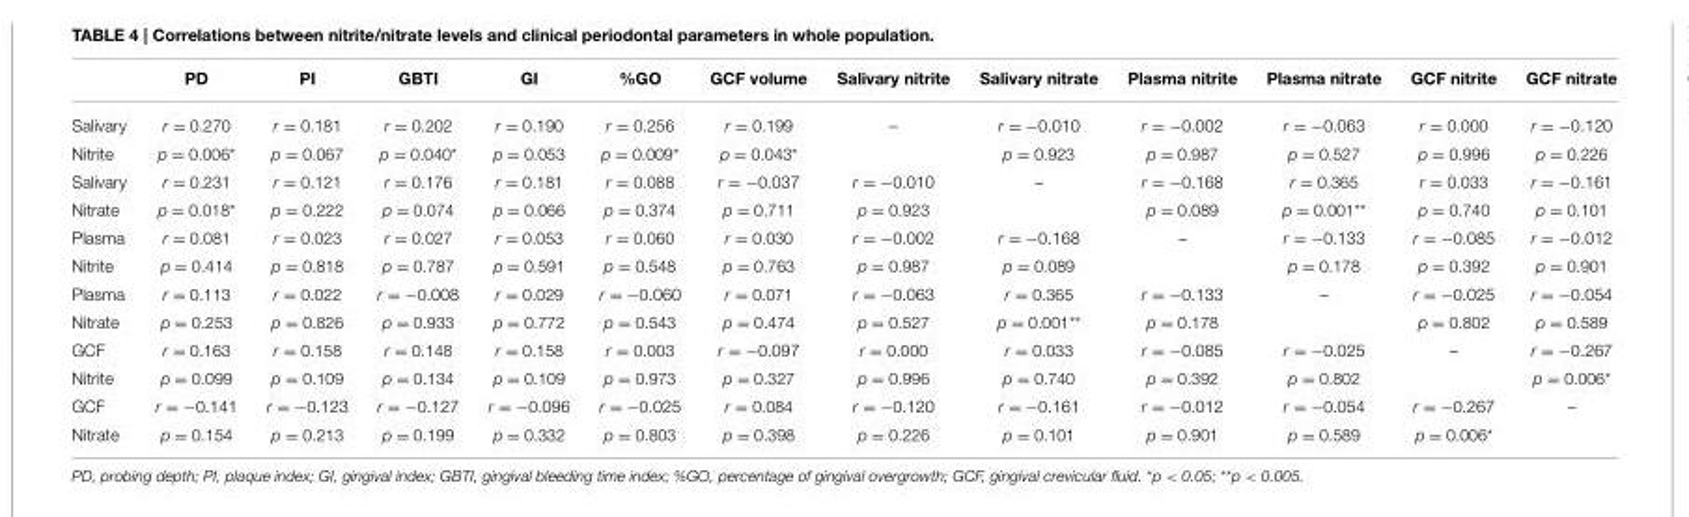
<table><thead><tr><td></td><td>PD</td><td>PI</td><td>GBTI</td><td>GI</td><td>%GO</td><td>GCF volume</td><td>Salivary nitrite</td><td>Salivary nitrate</td><td>Plasma nitrite</td><td>Plasma nitrate</td><td>GCF nitrite</td><td>GCF nitrate</td></tr></thead><tbody><tr><td>Salivary</td><td>r = 0.270</td><td>r = 0.181</td><td>r = 0.202</td><td>r = 0.190</td><td>r = 0.256</td><td>r = 0.199</td><td>–</td><td>r = −0.010</td><td>r = −0.002</td><td>r = −0.063</td><td>r = 0.000</td><td>r = −0.120</td></tr><tr><td>Nitrite</td><td>p = 0.006*</td><td>p = 0.067</td><td>p = 0.040*</td><td>p = 0.053</td><td>p = 0.009*</td><td>p = 0.043*</td><td></td><td>p = 0.923</td><td>p = 0.987</td><td>p = 0.527</td><td>p = 0.996</td><td>p = 0.226</td></tr><tr><td>Salivary</td><td>r = 0.231</td><td>r = 0.121</td><td>r = 0.176</td><td>r = 0.181</td><td>r = 0.088</td><td>r = −0.037</td><td>r = −0.010</td><td>–</td><td>r = −0.168</td><td>r = 0.365</td><td>r = 0.033</td><td>r = −0.161</td></tr><tr><td>Nitrate</td><td>p = 0.018*</td><td>p = 0.222</td><td>p = 0.074</td><td>p = 0.066</td><td>p = 0.374</td><td>p = 0.711</td><td>p = 0.923</td><td></td><td>p = 0.089</td><td>p = 0.001**</td><td>p = 0.740</td><td>p = 0.101</td></tr><tr><td>Plasma</td><td>r = 0.081</td><td>r = 0.023</td><td>r = 0.027</td><td>r = 0.053</td><td>r = 0.060</td><td>r = 0.030</td><td>r = −0.002</td><td>r = −0.168</td><td>–</td><td>r = −0.133</td><td>r = −0.085</td><td>r = −0.012</td></tr><tr><td>Nitrite</td><td>p = 0.414</td><td>p = 0.818</td><td>p = 0.787</td><td>p = 0.591</td><td>p = 0.548</td><td>p = 0.763</td><td>p = 0.987</td><td>p = 0.089</td><td></td><td>p = 0.178</td><td>p = 0.392</td><td>p = 0.901</td></tr><tr><td>Plasma</td><td>r = 0.113</td><td>r = 0.022</td><td>r = −0.008</td><td>r = 0.029</td><td>r = −0.060</td><td>r = 0.071</td><td>r = −0.063</td><td>r = 0.365</td><td>r = −0.133</td><td>–</td><td>r = −0.025</td><td>r = −0.054</td></tr><tr><td>Nitrate</td><td>p = 0.253</td><td>p = 0.826</td><td>p = 0.933</td><td>p = 0.772</td><td>p = 0.543</td><td>p = 0.474</td><td>p = 0.527</td><td>p = 0.001**</td><td>p = 0.178</td><td></td><td>p = 0.802</td><td>p = 0.589</td></tr><tr><td>GCF</td><td>r = 0.163</td><td>r = 0.158</td><td>r = 0.148</td><td>r = 0.158</td><td>r = 0.003</td><td>r = −0.097</td><td>r = 0.000</td><td>r = 0.033</td><td>r = −0.085</td><td>r = −0.025</td><td>–</td><td>r = −0.267</td></tr><tr><td>Nitrite</td><td>p = 0.099</td><td>p = 0.109</td><td>p = 0.134</td><td>p = 0.109</td><td>p = 0.973</td><td>p = 0.327</td><td>p = 0.996</td><td>p = 0.740</td><td>p = 0.392</td><td>p = 0.802</td><td></td><td>p = 0.006*</td></tr><tr><td>GCF</td><td>r = −0.141</td><td>r = −0.123</td><td>r = −0.127</td><td>r = −0.096</td><td>r = −0.025</td><td>r = 0.084</td><td>r = −0.120</td><td>r = −0.161</td><td>r = −0.012</td><td>r = −0.054</td><td>r = −0.267</td><td>–</td></tr><tr><td>Nitrate</td><td>p = 0.154</td><td>p = 0.213</td><td>p = 0.199</td><td>p = 0.332</td><td>p = 0.803</td><td>p = 0.398</td><td>p = 0.226</td><td>p = 0.101</td><td>p = 0.901</td><td>p = 0.589</td><td>p = 0.006*</td><td></td></tr></tbody></table>